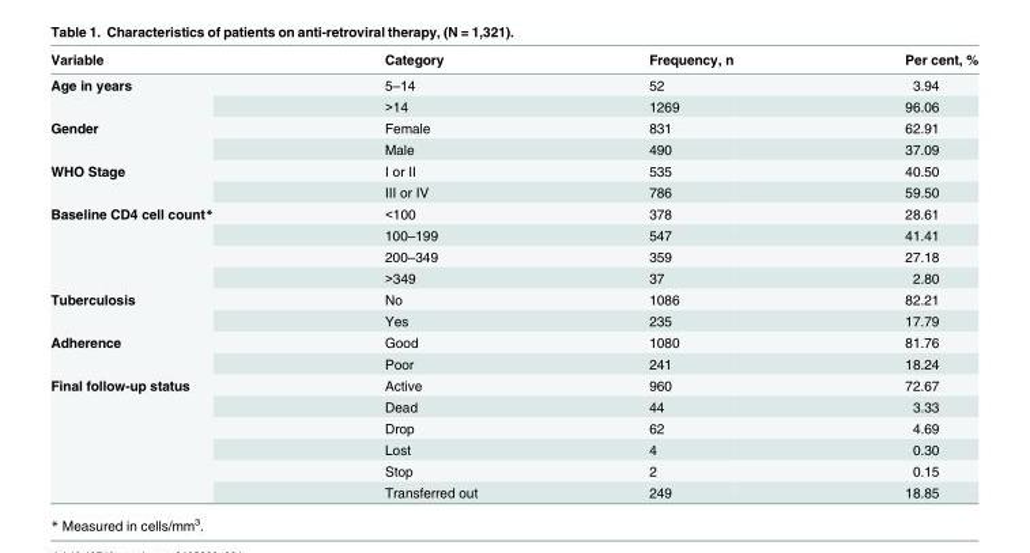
<table><thead><tr><td>Variable</td><td>Category</td><td>Frequency, n</td><td>Per cent, %</td></tr></thead><tbody><tr><td rowspan="2">Age in years</td><td>5–14</td><td>52</td><td>3.94</td></tr><tr><td>&gt;14</td><td>1269</td><td>96.06</td></tr><tr><td rowspan="2">Gender</td><td>Female</td><td>831</td><td>62.91</td></tr><tr><td>Male</td><td>490</td><td>37.09</td></tr><tr><td rowspan="2">WHO Stage</td><td>I or II</td><td>535</td><td>40.50</td></tr><tr><td>III or IV</td><td>786</td><td>59.50</td></tr><tr><td rowspan="4">Baseline CD4 cell count*</td><td>&lt;100</td><td>378</td><td>28.61</td></tr><tr><td>100–199</td><td>547</td><td>41.41</td></tr><tr><td>200–349</td><td>359</td><td>27.18</td></tr><tr><td>&gt;349</td><td>37</td><td>2.80</td></tr><tr><td rowspan="2">Tuberculosis</td><td>No</td><td>1086</td><td>82.21</td></tr><tr><td>Yes</td><td>235</td><td>17.79</td></tr><tr><td rowspan="2">Adherence</td><td>Good</td><td>1080</td><td>81.76</td></tr><tr><td>Poor</td><td>241</td><td>18.24</td></tr><tr><td rowspan="6">Final follow-up status</td><td>Active</td><td>960</td><td>72.67</td></tr><tr><td>Dead</td><td>44</td><td>3.33</td></tr><tr><td>Drop</td><td>62</td><td>4.69</td></tr><tr><td>Lost</td><td>4</td><td>0.30</td></tr><tr><td>Stop</td><td>2</td><td>0.15</td></tr><tr><td>Transferred out</td><td>249</td><td>18.85</td></tr></tbody></table>